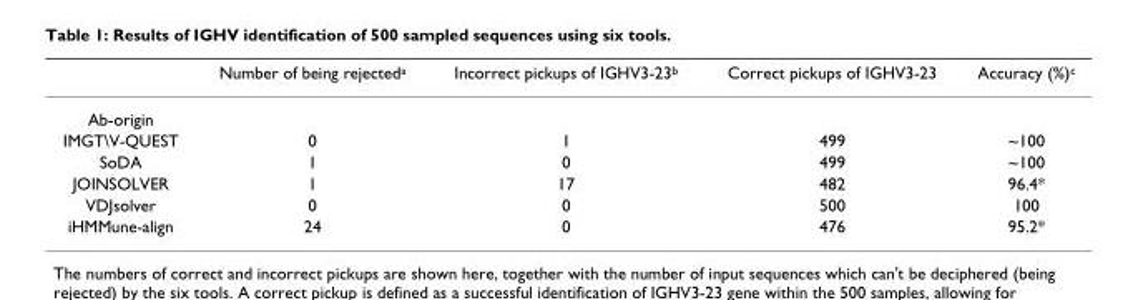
<table><thead><tr><td></td><td>Number of being rejected<sup>a</sup></td><td>Incorrect pickups of IGHV3-23<sup>b</sup></td><td>Correct pickups of IGHV3-23</td><td>Accuracy (%)<sup>c</sup></td></tr></thead><tbody><tr><td colspan="5">Ab-origin</td></tr><tr><td>IMGT\V-QUEST</td><td>0</td><td>1</td><td>499</td><td>~100</td></tr><tr><td>SoDA</td><td>1</td><td>0</td><td>499</td><td>~100</td></tr><tr><td>JOINSOLVER</td><td>1</td><td>17</td><td>482</td><td>96.4*</td></tr><tr><td>VDJsolver</td><td>0</td><td>0</td><td>500</td><td>100</td></tr><tr><td>iHMMune-align</td><td>24</td><td>0</td><td>476</td><td>95.2*</td></tr></tbody></table>